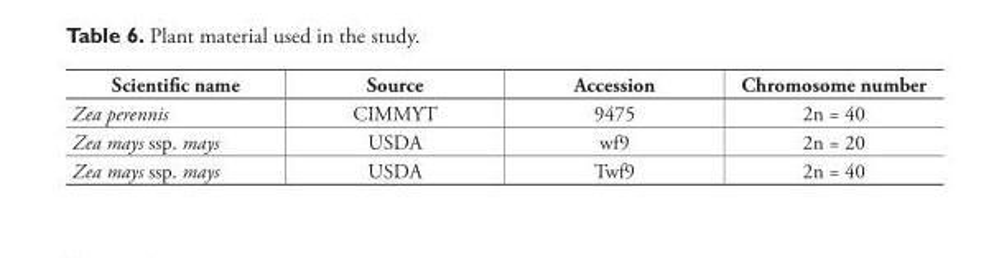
<table><thead><tr><td>Scientific name</td><td>Source</td><td>Accession</td><td>Chromosome number</td></tr></thead><tbody><tr><td>Zea perennis</td><td>CIMMYT</td><td>9475</td><td>2n = 40</td></tr><tr><td>Zea mays ssp. mays</td><td>USDA</td><td>wf9</td><td>2n = 20</td></tr><tr><td>Zea mays ssp. mays</td><td>USDA</td><td>Twf9</td><td>2n = 40</td></tr></tbody></table>